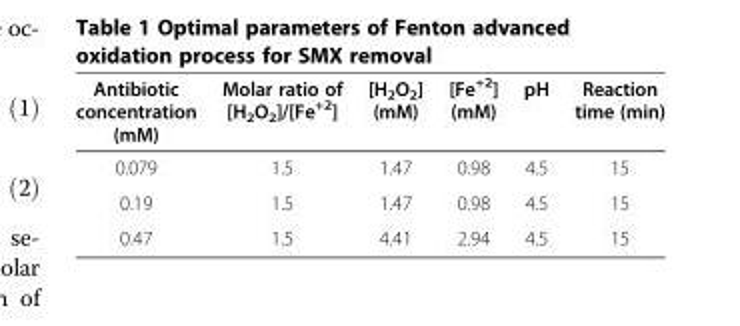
<table><thead><tr><td>Antibiotic concentration (mM)</td><td>Molar ratio of [H<sub>2</sub>O<sub>2</sub>]/[Fe<sup>+2</sup>]</td><td>[H<sub>2</sub>O<sub>2</sub>] (mM)</td><td>[Fe<sup>+2</sup>] (mM)</td><td>pH</td><td>Reaction time (min)</td></tr></thead><tbody><tr><td>0.079</td><td>1.5</td><td>1.47</td><td>0.98</td><td>4.5</td><td>15</td></tr><tr><td>0.19</td><td>1.5</td><td>1.47</td><td>0.98</td><td>4.5</td><td>15</td></tr><tr><td>0.47</td><td>1.5</td><td>4.41</td><td>2.94</td><td>4.5</td><td>15</td></tr></tbody></table>